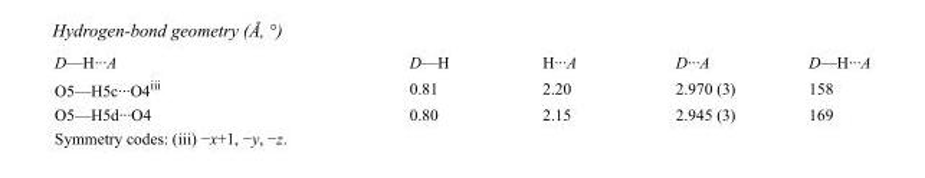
<table><tbody><tr><td>D—H···A</td><td>D—H</td><td>H···A</td><td>D···A</td><td>D—H···A</td></tr><tr><td>O5—H5c···O4<sup>iii</sup></td><td>0.81</td><td>2.20</td><td>2.970 (3)</td><td>158</td></tr><tr><td>O5—H5d···O4</td><td>0.80</td><td>2.15</td><td>2.945 (3)</td><td>169</td></tr></tbody></table>